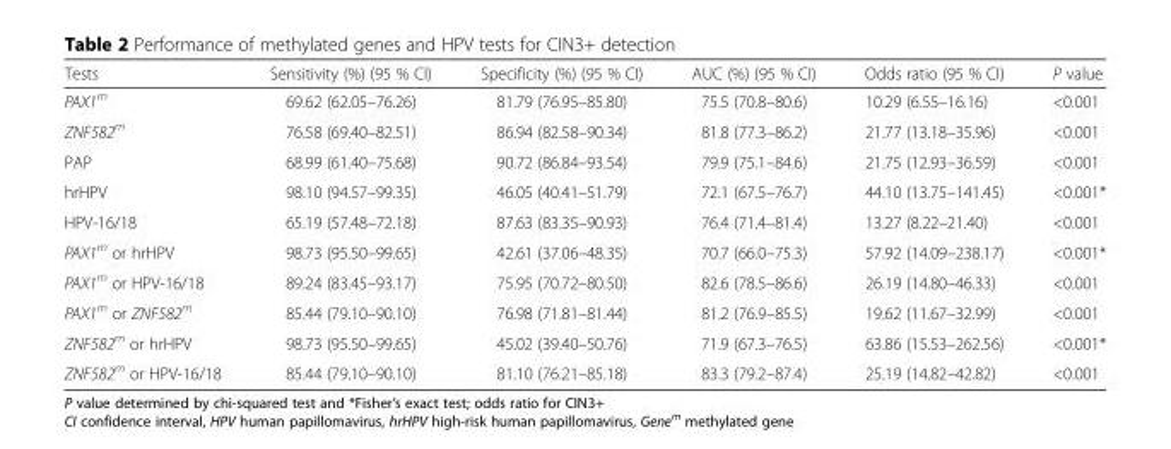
<table><thead><tr><td>Tests</td><td>Sensitivity (%) (95 % CI)</td><td>Specificity (%) (95 % CI)</td><td>AUC (%) (95 % CI)</td><td>Odds ratio (95 % CI)</td><td>P value</td></tr></thead><tbody><tr><td>PAX1<sup>m</sup></td><td>69.62 (62.05–76.26)</td><td>81.79 (76.95–85.80)</td><td>75.5 (70.8–80.6)</td><td>10.29 (6.55–16.16)</td><td>&lt;0.001</td></tr><tr><td>ZNF582<sup>m</sup></td><td>76.58 (69.40–82.51)</td><td>86.94 (82.58–90.34)</td><td>81.8 (77.3–86.2)</td><td>21.77 (13.18–35.96)</td><td>&lt;0.001</td></tr><tr><td>PAP</td><td>68.99 (61.40–75.68)</td><td>90.72 (86.84–93.54)</td><td>79.9 (75.1–84.6)</td><td>21.75 (12.93–36.59)</td><td>&lt;0.001</td></tr><tr><td>hrHPV</td><td>98.10 (94.57–99.35)</td><td>46.05 (40.41–51.79)</td><td>72.1 (67.5–76.7)</td><td>44.10 (13.75–141.45)</td><td>&lt;0.001*</td></tr><tr><td>HPV-16/18</td><td>65.19 (57.48–72.18)</td><td>87.63 (83.35–90.93)</td><td>76.4 (71.4–81.4)</td><td>13.27 (8.22–21.40)</td><td>&lt;0.001</td></tr><tr><td>PAX1<sup>m</sup> or hrHPV</td><td>98.73 (95.50–99.65)</td><td>42.61 (37.06–48.35)</td><td>70.7 (66.0–75.3)</td><td>57.92 (14.09–238.17)</td><td>&lt;0.001*</td></tr><tr><td>PAX1<sup>m</sup> or HPV-16/18</td><td>89.24 (83.45–93.17)</td><td>75.95 (70.72–80.50)</td><td>82.6 (78.5–86.6)</td><td>26.19 (14.80–46.33)</td><td>&lt;0.001</td></tr><tr><td>PAX1<sup>m</sup> or ZNF582<sup>m</sup></td><td>85.44 (79.10–90.10)</td><td>76.98 (71.81–81.44)</td><td>81.2 (76.9–85.5)</td><td>19.62 (11.67–32.99)</td><td>&lt;0.001</td></tr><tr><td>ZNF582<sup>m</sup> or hrHPV</td><td>98.73 (95.50–99.65)</td><td>45.02 (39.40–50.76)</td><td>71.9 (67.3–76.5)</td><td>63.86 (15.53–262.56)</td><td>&lt;0.001*</td></tr><tr><td>ZNF582<sup>m</sup> or HPV-16/18</td><td>85.44 (79.10–90.10)</td><td>81.10 (76.21–85.18)</td><td>83.3 (79.2–87.4)</td><td>25.19 (14.82–42.82)</td><td>&lt;0.001</td></tr></tbody></table>